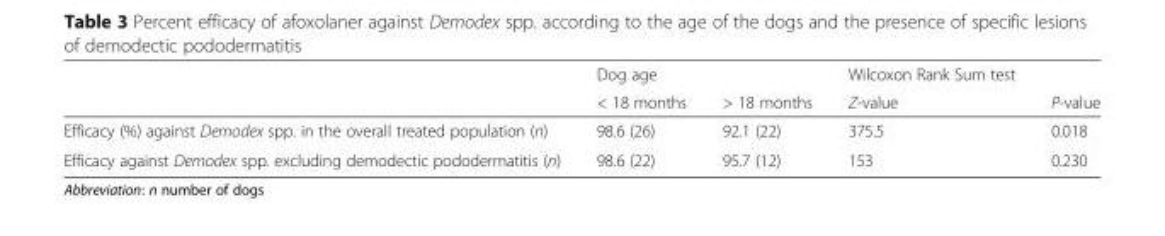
<table><thead><tr><td rowspan="2"></td><td rowspan="2">Dog age &lt; 18 months</td><td rowspan="2">&gt; 18 months</td><td rowspan="2">Wilcoxon Rank Sum test Z-value</td><td rowspan="2">P-value</td></tr><tr></tr></thead><tbody><tr><td>Efficacy (%) against Demodex spp. in the overall treated population (n)</td><td>98.6 (26)</td><td>92.1 (22)</td><td>375.5</td><td>0.018</td></tr><tr><td>Efficacy against Demodex spp. excluding demodectic pododermatitis (n)</td><td>98.6 (22)</td><td>95.7 (12)</td><td>153</td><td>0.230</td></tr></tbody></table>